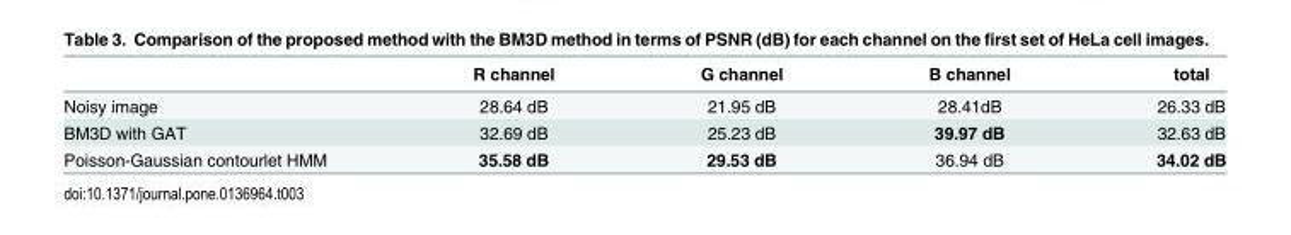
<table><thead><tr><td></td><td>R channel</td><td>G channel</td><td>B channel</td><td>total</td></tr></thead><tbody><tr><td>Noisy image</td><td>28.64 dB</td><td>21.95 dB</td><td>28.41dB</td><td>26.33 dB</td></tr><tr><td>BM3D with GAT</td><td>32.69 dB</td><td>25.23 dB</td><td>39.97 dB</td><td>32.63 dB</td></tr><tr><td>Poisson-Gaussian contourlet HMM</td><td>35.58 dB</td><td>29.53 dB</td><td>36.94 dB</td><td>34.02 dB</td></tr></tbody></table>